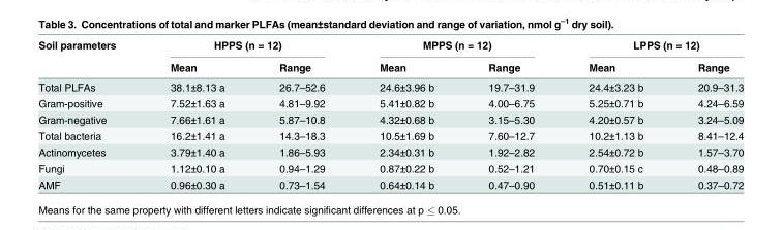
<table><thead><tr><td rowspan="2">Soil parameters</td><td colspan="2">HPPS (n = 12)</td><td colspan="2">MPPS (n = 12)</td><td colspan="2">LPPS (n = 12)</td></tr><tr><td>Mean</td><td>Range</td><td>Mean</td><td>Range</td><td>Mean</td><td>Range</td></tr></thead><tbody><tr><td>Total PLFAs</td><td>38.1±8.13 a</td><td>26.7–52.6</td><td>24.6±3.96 b</td><td>19.7–31.9</td><td>24.4±3.23 b</td><td>20.9–31.3</td></tr><tr><td>Gram-positive</td><td>7.52±1.63 a</td><td>4.81–9.92</td><td>5.41±0.82 b</td><td>4.00–6.75</td><td>5.25±0.71 b</td><td>4.24–6.59</td></tr><tr><td>Gram-negative</td><td>7.66±1.61 a</td><td>5.87–10.8</td><td>4.32±0.68 b</td><td>3.15–5.30</td><td>4.20±0.57 b</td><td>3.24–5.09</td></tr><tr><td>Total bacteria</td><td>16.2±1.41 a</td><td>14.3–18.3</td><td>10.5±1.69 b</td><td>7.60–12.7</td><td>10.2±1.13 b</td><td>8.41–12.4</td></tr><tr><td>Actinomycetes</td><td>3.79±1.40 a</td><td>1.86–5.93</td><td>2.34±0.31 b</td><td>1.92–2.82</td><td>2.54±0.72 b</td><td>1.57–3.70</td></tr><tr><td>Fungi</td><td>1.12±0.10 a</td><td>0.94–1.29</td><td>0.87±0.22 b</td><td>0.52–1.21</td><td>0.70±0.15 c</td><td>0.48–0.89</td></tr><tr><td>AMF</td><td>0.96±0.30 a</td><td>0.73–1.54</td><td>0.64±0.14 b</td><td>0.47–0.90</td><td>0.51±0.11 b</td><td>0.37–0.72</td></tr></tbody></table>